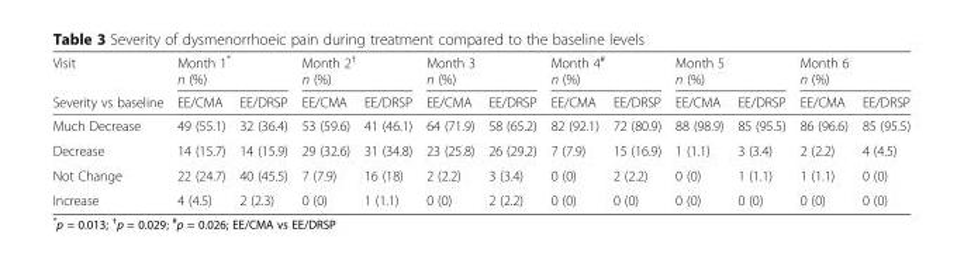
<table><thead><tr><td rowspan="2">Visit Severity vs baseline</td><td colspan="2">Month 1* n (%)</td><td colspan="2">Month 2<sup>†</sup> n (%)</td><td colspan="2">Month 3 n (%)</td><td colspan="2">Month 4<sup>#</sup> n (%)</td><td colspan="2">Month 5 n (%)</td><td colspan="2">Month 6 n (%)</td></tr><tr><td>EE/CMA</td><td>EE/DRSP</td><td>EE/CMA</td><td>EE/DRSP</td><td>EE/CMA</td><td>EE/DRSP</td><td>EE/CMA</td><td>EE/DRSP</td><td>EE/CMA</td><td>EE/DRSP</td><td>EE/CMA</td><td>EE/DRSP</td></tr></thead><tbody><tr><td>Much Decrease</td><td>49 (55.1)</td><td>32 (36.4)</td><td>53 (59.6)</td><td>41 (46.1)</td><td>64 (71.9)</td><td>58 (65.2)</td><td>82 (92.1)</td><td>72 (80.9)</td><td>88 (98.9)</td><td>85 (95.5)</td><td>86 (96.6)</td><td>85 (95.5)</td></tr><tr><td>Decrease</td><td>14 (15.7)</td><td>14 (15.9)</td><td>29 (32.6)</td><td>31 (34.8)</td><td>23 (25.8)</td><td>26 (29.2)</td><td>7 (7.9)</td><td>15 (16.9)</td><td>1 (1.1)</td><td>3 (3.4)</td><td>2 (2.2)</td><td>4 (4.5)</td></tr><tr><td>Not Change</td><td>22 (24.7)</td><td>40 (45.5)</td><td>7 (7.9)</td><td>16 (18)</td><td>2 (2.2)</td><td>3 (3.4)</td><td>0 (0)</td><td>2 (2.2)</td><td>0 (0)</td><td>1 (1.1)</td><td>1 (1.1)</td><td>0 (0)</td></tr><tr><td>Increase</td><td>4 (4.5)</td><td>2 (2.3)</td><td>0 (0)</td><td>1 (1.1)</td><td>0 (0)</td><td>2 (2.2)</td><td>0 (0)</td><td>0 (0)</td><td>0 (0)</td><td>0 (0)</td><td>0 (0)</td><td>0 (0)</td></tr></tbody></table>